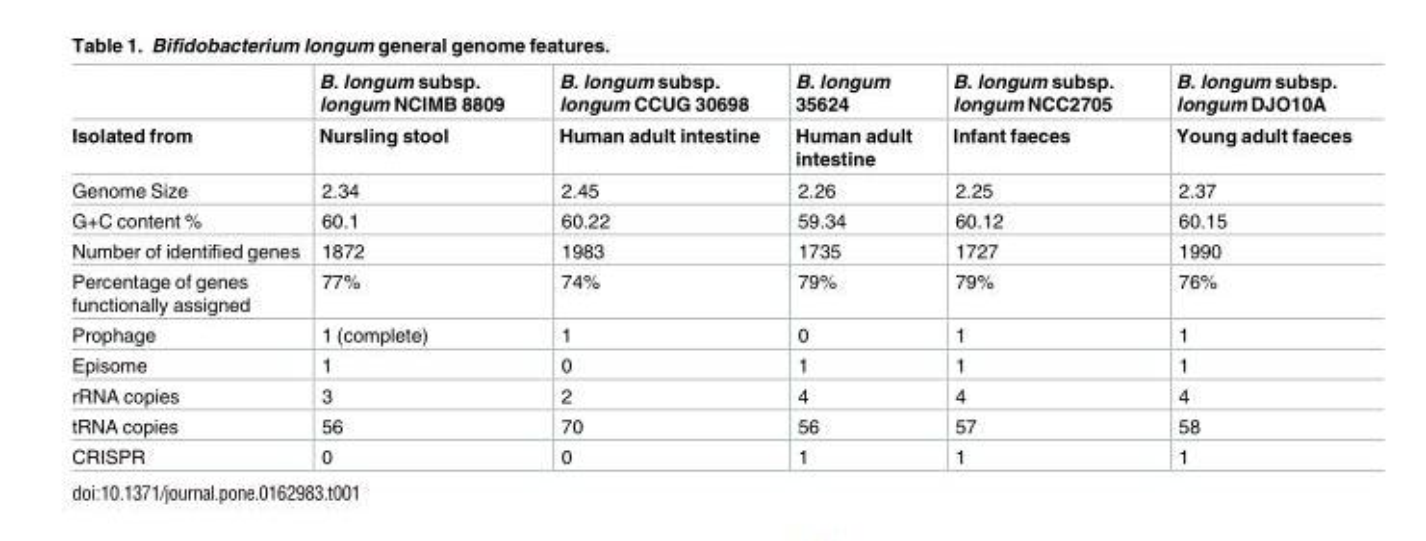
<table><thead><tr><td rowspan="2">Isolated from</td><td rowspan="2">B. longum subsp. longum NCIMB 8809 Nursling stool</td><td rowspan="2">B. longum subsp. longum CCUG 30698 Human adult intestine</td><td rowspan="2">B. longum 35624 Human adult intestine</td><td rowspan="2">B. longum subsp. longum NCC2705 Infant faeces</td><td rowspan="2">B. longum subsp. longum DJO10A Young adult faeces</td></tr><tr></tr></thead><tbody><tr><td>Genome Size</td><td>2.34</td><td>2.45</td><td>2.26</td><td>2.25</td><td>2.37</td></tr><tr><td>G+C content %</td><td>60.1</td><td>60.22</td><td>59.34</td><td>60.12</td><td>60.15</td></tr><tr><td>Number of identified genes</td><td>1872</td><td>1983</td><td>1735</td><td>1727</td><td>1990</td></tr><tr><td>Percentage of genes functionally assigned</td><td>77%</td><td>74%</td><td>79%</td><td>79%</td><td>76%</td></tr><tr><td>Prophage</td><td>1 (complete)</td><td>1</td><td>0</td><td>1</td><td>1</td></tr><tr><td>Episome</td><td>1</td><td>0</td><td>1</td><td>1</td><td>1</td></tr><tr><td>rRNA copies</td><td>3</td><td>2</td><td>4</td><td>4</td><td>4</td></tr><tr><td>tRNA copies</td><td>56</td><td>70</td><td>56</td><td>57</td><td>58</td></tr><tr><td>CRISPR</td><td>0</td><td>0</td><td>1</td><td>1</td><td>1</td></tr></tbody></table>